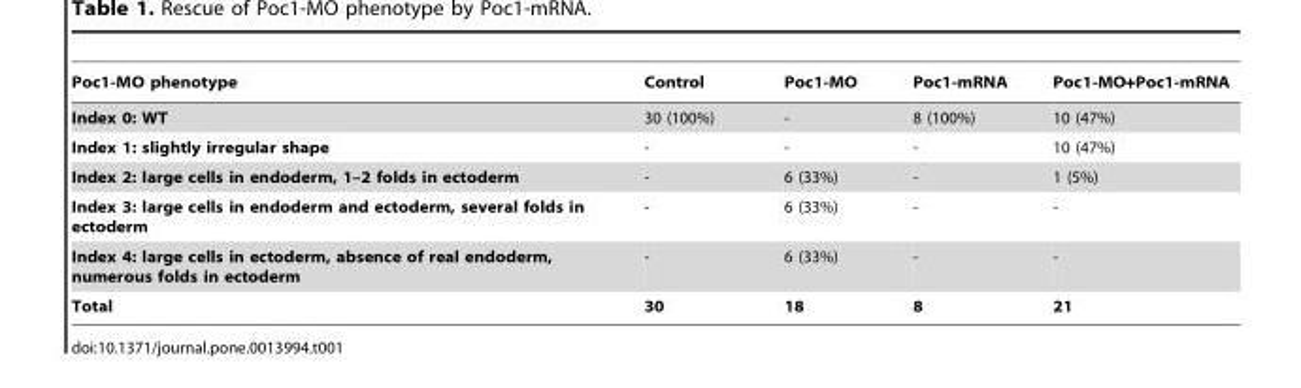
<table><thead><tr><td>Poc1-MO phenotype</td><td>Control</td><td>Poc1-MO</td><td>Poc1-mRNA</td><td>Poc1-MO+Poc1-mRNA</td></tr></thead><tbody><tr><td>Index 0: WT</td><td>30 (100%)</td><td>-</td><td>8 (100%)</td><td>10 (47%)</td></tr><tr><td>Index 1: slightly irregular shape</td><td>-</td><td>-</td><td>-</td><td>10 (47%)</td></tr><tr><td>Index 2: large cells in endoderm, 1–2 folds in ectoderm</td><td>-</td><td>6 (33%)</td><td>-</td><td>1 (5%)</td></tr><tr><td>Index 3: large cells in endoderm and ectoderm, several folds in ectoderm</td><td>-</td><td>6 (33%)</td><td>-</td><td>-</td></tr><tr><td>Index 4: large cells in ectoderm, absence of real endoderm, numerous folds in ectoderm</td><td>-</td><td>6 (33%)</td><td>-</td><td>-</td></tr><tr><td>Total</td><td>30</td><td>18</td><td>8</td><td>21</td></tr></tbody></table>